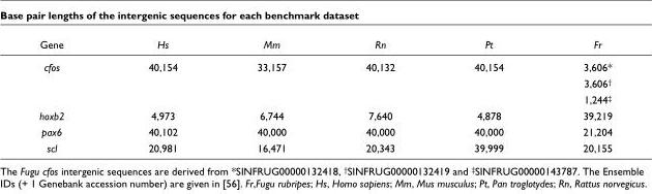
<table><thead><tr><td>Gene</td><td>Hs</td><td>Mm</td><td>Rn</td><td>Pt</td><td>Fr</td></tr></thead><tbody><tr><td rowspan="3">cfos</td><td>40,154</td><td>33,157</td><td>40,132</td><td>40,154</td><td>3,606*</td></tr><tr><td></td><td></td><td></td><td></td><td>3,606†</td></tr><tr><td></td><td></td><td></td><td></td><td>1,244‡</td></tr><tr><td>hoxb2</td><td>4,973</td><td>6,744</td><td>7,640</td><td>4,878</td><td>39,219</td></tr><tr><td>pax6</td><td>40,102</td><td>40,000</td><td>40,000</td><td>40,000</td><td>21,204</td></tr><tr><td>scl</td><td>20,981</td><td>16,471</td><td>20,343</td><td>39,999</td><td>20,155</td></tr></tbody></table>